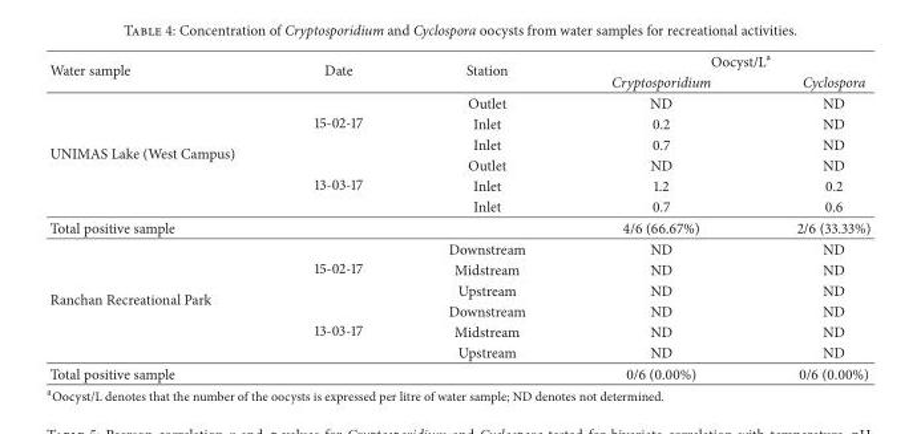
<table><thead><tr><td rowspan="2">Water sample</td><td rowspan="2">Date</td><td rowspan="2">Station</td><td colspan="2">Oocyst/L<sup>a</sup></td></tr><tr><td>Cryptosporidium</td><td>Cyclospora</td></tr></thead><tbody><tr><td rowspan="6">UNIMAS Lake (West Campus)</td><td rowspan="3">15-02-17</td><td>Outlet</td><td>ND</td><td>ND</td></tr><tr><td>Inlet</td><td>0.2</td><td>ND</td></tr><tr><td>Inlet</td><td>0.7</td><td>ND</td></tr><tr><td rowspan="3">13-03-17</td><td>Outlet</td><td>ND</td><td>ND</td></tr><tr><td>Inlet</td><td>1.2</td><td>0.2</td></tr><tr><td>Inlet</td><td>0.7</td><td>0.6</td></tr><tr><td colspan="3">Total positive sample</td><td>4/6 (66.67%)</td><td>2/6 (33.33%)</td></tr><tr><td rowspan="6">Ranchan Recreational Park</td><td rowspan="3">15-02-17</td><td>Downstream</td><td>ND</td><td>ND</td></tr><tr><td>Midstream</td><td>ND</td><td>ND</td></tr><tr><td>Upstream</td><td>ND</td><td>ND</td></tr><tr><td rowspan="3">13-03-17</td><td>Downstream</td><td>ND</td><td>ND</td></tr><tr><td>Midstream</td><td>ND</td><td>ND</td></tr><tr><td>Upstream</td><td>ND</td><td>ND</td></tr><tr><td colspan="3">Total positive sample</td><td>0/6 (0.00%)</td><td>0/6 (0.00%)</td></tr></tbody></table>